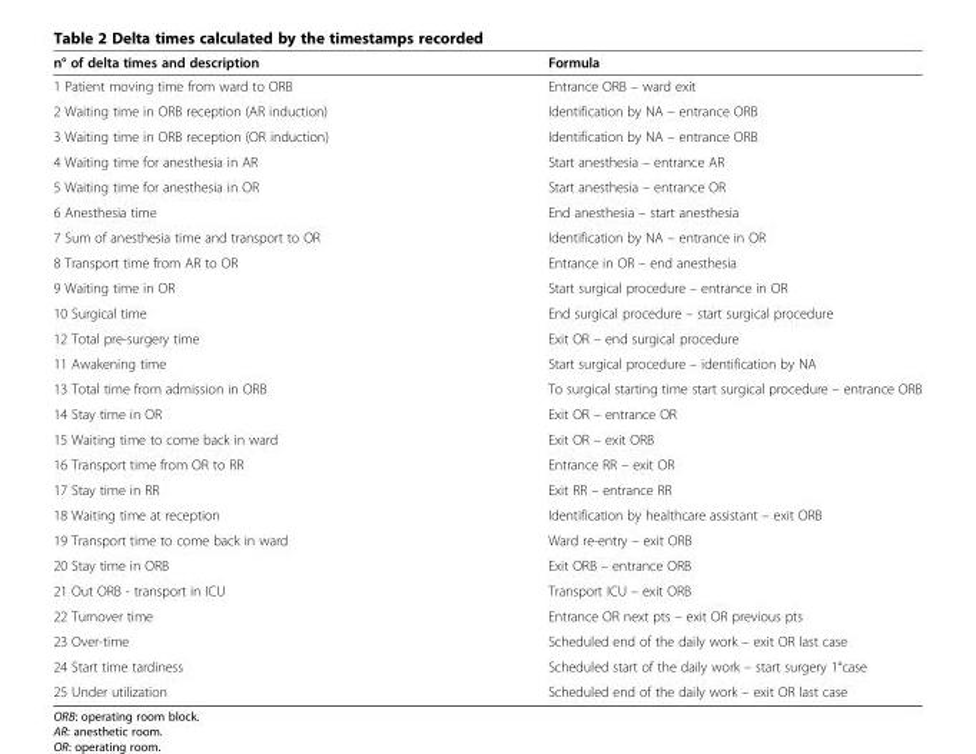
<table><thead><tr><td>n° of delta times and description</td><td>Formula</td></tr></thead><tbody><tr><td>1 Patient moving time from ward to ORB</td><td>Entrance ORB – ward exit</td></tr><tr><td>2 Waiting time in ORB reception (AR induction)</td><td>Identification by NA – entrance ORB</td></tr><tr><td>3 Waiting time in ORB reception (OR induction)</td><td>Identification by NA – entrance ORB</td></tr><tr><td>4 Waiting time for anesthesia in AR</td><td>Start anesthesia – entrance AR</td></tr><tr><td>5 Waiting time for anesthesia in OR</td><td>Start anesthesia – entrance OR</td></tr><tr><td>6 Anesthesia time</td><td>End anesthesia – start anesthesia</td></tr><tr><td>7 Sum of anesthesia time and transport to OR</td><td>Identification by NA – entrance in OR</td></tr><tr><td>8 Transport time from AR to OR</td><td>Entrance in OR – end anesthesia</td></tr><tr><td>9 Waiting time in OR</td><td>Start surgical procedure – entrance in OR</td></tr><tr><td>10 Surgical time</td><td>End surgical procedure – start surgical procedure</td></tr><tr><td>12 Total pre-surgery time</td><td>Exit OR – end surgical procedure</td></tr><tr><td>11 Awakening time</td><td>Start surgical procedure – identification by NA</td></tr><tr><td>13 Total time from admission in ORB</td><td>To surgical starting time start surgical procedure – entrance ORB</td></tr><tr><td>14 Stay time in OR</td><td>Exit OR – entrance OR</td></tr><tr><td>15 Waiting time to come back in ward</td><td>Exit OR – exit ORB</td></tr><tr><td>16 Transport time from OR to RR</td><td>Entrance RR – exit OR</td></tr><tr><td>17 Stay time in RR</td><td>Exit RR – entrance RR</td></tr><tr><td>18 Waiting time at reception</td><td>Identification by healthcare assistant – exit ORB</td></tr><tr><td>19 Transport time to come back in ward</td><td>Ward re-entry – exit ORB</td></tr><tr><td>20 Stay time in ORB</td><td>Exit ORB – entrance ORB</td></tr><tr><td>21 Out ORB - transport in ICU</td><td>Transport ICU – exit ORB</td></tr><tr><td>22 Turnover time</td><td>Entrance OR next pts – exit OR previous pts</td></tr><tr><td>23 Over-time</td><td>Scheduled end of the daily work – exit OR last case</td></tr><tr><td>24 Start time tardiness</td><td>Scheduled start of the daily work – start surgery 1°case</td></tr><tr><td>25 Under utilization</td><td>Scheduled end of the daily work – exit OR last case</td></tr></tbody></table>